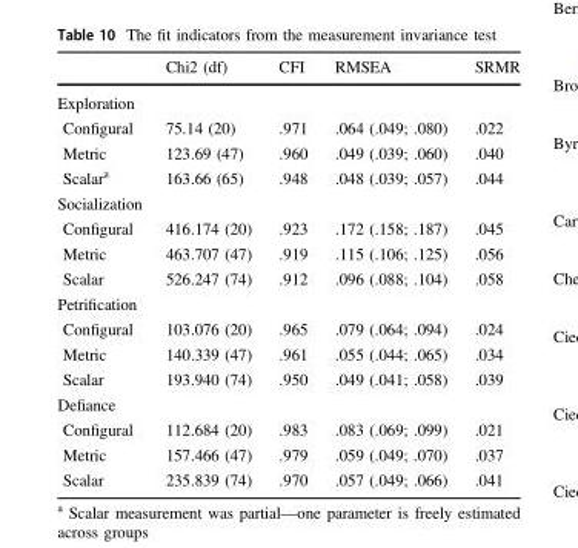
<table><thead><tr><td></td><td>Chi2 (df)</td><td>CFI</td><td>RMSEA</td><td>SRMR</td></tr></thead><tbody><tr><td colspan="5">Exploration</td></tr><tr><td>Configural</td><td>75.14 (20)</td><td>.971</td><td>.064 (.049; .080)</td><td>.022</td></tr><tr><td>Metric</td><td>123.69 (47)</td><td>.960</td><td>.049 (.039; .060)</td><td>.040</td></tr><tr><td>Scalar<sup>a</sup></td><td>163.66 (65)</td><td>.948</td><td>.048 (.039; .057)</td><td>.044</td></tr><tr><td colspan="5">Socialization</td></tr><tr><td>Configural</td><td>416.174 (20)</td><td>.923</td><td>.172 (.158; .187)</td><td>.045</td></tr><tr><td>Metric</td><td>463.707 (47)</td><td>.919</td><td>.115 (.106; .125)</td><td>.056</td></tr><tr><td>Scalar</td><td>526.247 (74)</td><td>.912</td><td>.096 (.088; .104)</td><td>.058</td></tr><tr><td colspan="5">Petrification</td></tr><tr><td>Configural</td><td>103.076 (20)</td><td>.965</td><td>.079 (.064; .094)</td><td>.024</td></tr><tr><td>Metric</td><td>140.339 (47)</td><td>.961</td><td>.055 (.044; .065)</td><td>.034</td></tr><tr><td>Scalar</td><td>193.940 (74)</td><td>.950</td><td>.049 (.041; .058)</td><td>.039</td></tr><tr><td colspan="5">Defiance</td></tr><tr><td>Configural</td><td>112.684 (20)</td><td>.983</td><td>.083 (.069; .099)</td><td>.021</td></tr><tr><td>Metric</td><td>157.466 (47)</td><td>.979</td><td>.059 (.049; .070)</td><td>.037</td></tr><tr><td>Scalar</td><td>235.839 (74)</td><td>.970</td><td>.057 (.049; .066)</td><td>.041</td></tr></tbody></table>